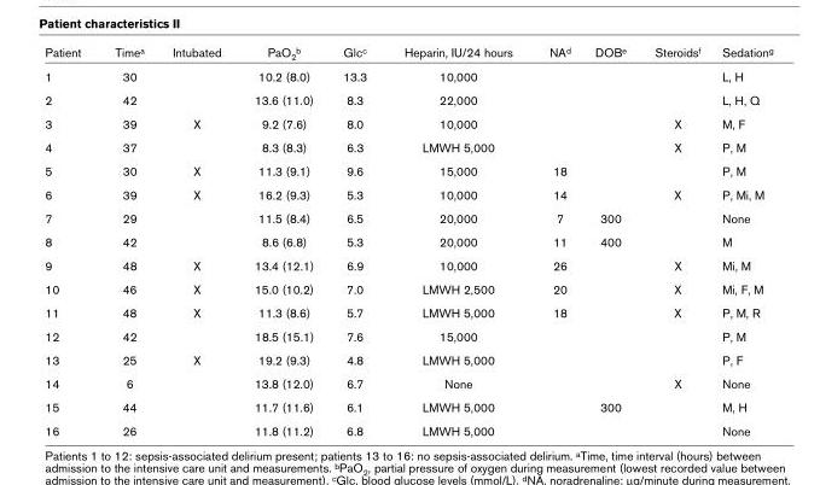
<table><thead><tr><td>Patient</td><td>Time<sup>a</sup></td><td>Intubated</td><td>PaO<sub>2</sub><sup>b</sup></td><td>Glc<sup>c</sup></td><td>Heparin, IU/24 hours</td><td>NA<sup>d</sup></td><td>DOB<sup>e</sup></td><td>Steroids<sup>f</sup></td><td>Sedation<sup>g</sup></td></tr></thead><tbody><tr><td>1</td><td>30</td><td></td><td>10.2 (8.0)</td><td>13.3</td><td>10,000</td><td></td><td></td><td></td><td>L, H</td></tr><tr><td>2</td><td>42</td><td></td><td>13.6 (11.0)</td><td>8.3</td><td>22,000</td><td></td><td></td><td></td><td>L, H, Q</td></tr><tr><td>3</td><td>39</td><td>X</td><td>9.2 (7.6)</td><td>8.0</td><td>10,000</td><td></td><td></td><td>X</td><td>M, F</td></tr><tr><td>4</td><td>37</td><td></td><td>8.3 (8.3)</td><td>6.3</td><td>LMWH 5,000</td><td></td><td></td><td>X</td><td>P, M</td></tr><tr><td>5</td><td>30</td><td>X</td><td>11.3 (9.1)</td><td>9.6</td><td>15,000</td><td>18</td><td></td><td></td><td>P, M</td></tr><tr><td>6</td><td>39</td><td>X</td><td>16.2 (9.3)</td><td>5.3</td><td>10,000</td><td>14</td><td></td><td>X</td><td>P, Mi, M</td></tr><tr><td>7</td><td>29</td><td></td><td>11.5 (8.4)</td><td>6.5</td><td>20,000</td><td>7</td><td>300</td><td></td><td>None</td></tr><tr><td>8</td><td>42</td><td></td><td>8.6 (6.8)</td><td>5.3</td><td>20,000</td><td>11</td><td>400</td><td></td><td>M</td></tr><tr><td>9</td><td>48</td><td>X</td><td>13.4 (12.1)</td><td>6.9</td><td>10,000</td><td>26</td><td></td><td>X</td><td>Mi, M</td></tr><tr><td>10</td><td>46</td><td>X</td><td>15.0 (10.2)</td><td>7.0</td><td>LMWH 2,500</td><td>20</td><td></td><td>X</td><td>Mi, F, M</td></tr><tr><td>11</td><td>48</td><td>X</td><td>11.3 (8.6)</td><td>5.7</td><td>LMWH 5,000</td><td>18</td><td></td><td>X</td><td>P, M, R</td></tr><tr><td>12</td><td>42</td><td></td><td>18.5 (15.1)</td><td>7.6</td><td>15,000</td><td></td><td></td><td></td><td>P, M</td></tr><tr><td>13</td><td>25</td><td>X</td><td>19.2 (9.3)</td><td>4.8</td><td>LMWH 5,000</td><td></td><td></td><td></td><td>P, F</td></tr><tr><td>14</td><td>6</td><td></td><td>13.8 (12.0)</td><td>6.7</td><td>None</td><td></td><td></td><td>X</td><td>None</td></tr><tr><td>15</td><td>44</td><td></td><td>11.7 (11.6)</td><td>6.1</td><td>LMWH 5,000</td><td></td><td>300</td><td></td><td>M, H</td></tr><tr><td>16</td><td>26</td><td></td><td>11.8 (11.2)</td><td>6.8</td><td>LMWH 5,000</td><td></td><td></td><td></td><td>None</td></tr></tbody></table>